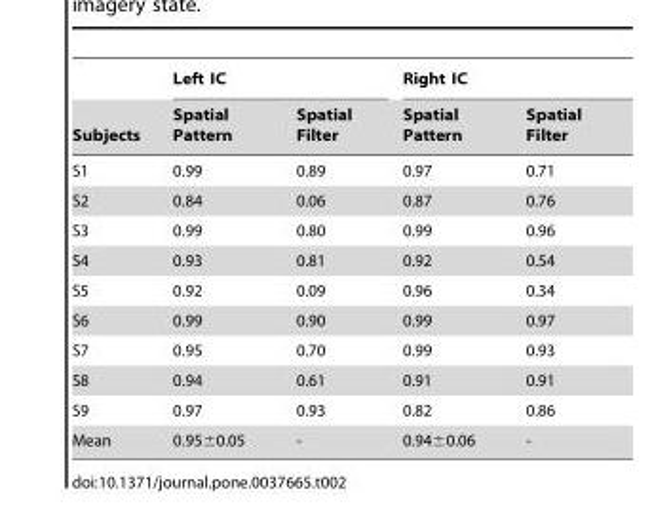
<table><thead><tr><td rowspan="2">Subjects</td><td colspan="2">Left IC</td><td colspan="2">Right IC</td></tr><tr><td>Spatial Pattern</td><td>Spatial Filter</td><td>Spatial Pattern</td><td>Spatial Filter</td></tr></thead><tbody><tr><td>S1</td><td>0.99</td><td>0.89</td><td>0.97</td><td>0.71</td></tr><tr><td>S2</td><td>0.84</td><td>0.06</td><td>0.87</td><td>0.76</td></tr><tr><td>S3</td><td>0.99</td><td>0.80</td><td>0.99</td><td>0.96</td></tr><tr><td>S4</td><td>0.93</td><td>0.81</td><td>0.92</td><td>0.54</td></tr><tr><td>S5</td><td>0.92</td><td>0.09</td><td>0.96</td><td>0.34</td></tr><tr><td>S6</td><td>0.99</td><td>0.90</td><td>0.99</td><td>0.97</td></tr><tr><td>S7</td><td>0.95</td><td>0.70</td><td>0.99</td><td>0.93</td></tr><tr><td>S8</td><td>0.94</td><td>0.61</td><td>0.91</td><td>0.91</td></tr><tr><td>S9</td><td>0.97</td><td>0.93</td><td>0.82</td><td>0.86</td></tr><tr><td>Mean</td><td>0.95±0.05</td><td>-</td><td>0.94±0.06</td><td>-</td></tr></tbody></table>